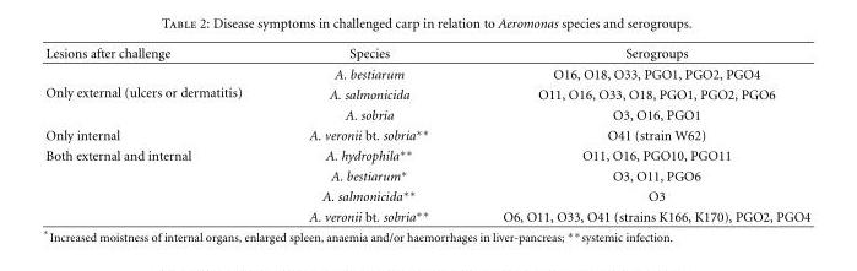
<table><thead><tr><td>Lesions after challenge</td><td>Species</td><td>Serogroups</td></tr></thead><tbody><tr><td rowspan="3">Only external (ulcers or dermatitis)</td><td>A. bestiarum</td><td>O16, O18, O33, PGO1, PGO2, PGO4</td></tr><tr><td>A. salmonicida</td><td>O11, O16, O33, O18, PGO1, PGO2, PGO6</td></tr><tr><td>A. sobria</td><td>O3, O16, PGO1</td></tr><tr><td>Only internal</td><td>A. veronii bt. sobria∗∗</td><td>O41 (strain W62)</td></tr><tr><td rowspan="4">Both external and internal</td><td>A. hydrophila∗∗</td><td>O11, O16, PGO10, PGO11</td></tr><tr><td>A. bestiarum∗</td><td>O3, O11, PGO6</td></tr><tr><td>A. salmonicida∗∗</td><td>O3</td></tr><tr><td>A. veronii bt. sobria∗∗</td><td>O6, O11, O33, O41 (strains K166, K170), PGO2, PGO4</td></tr></tbody></table>